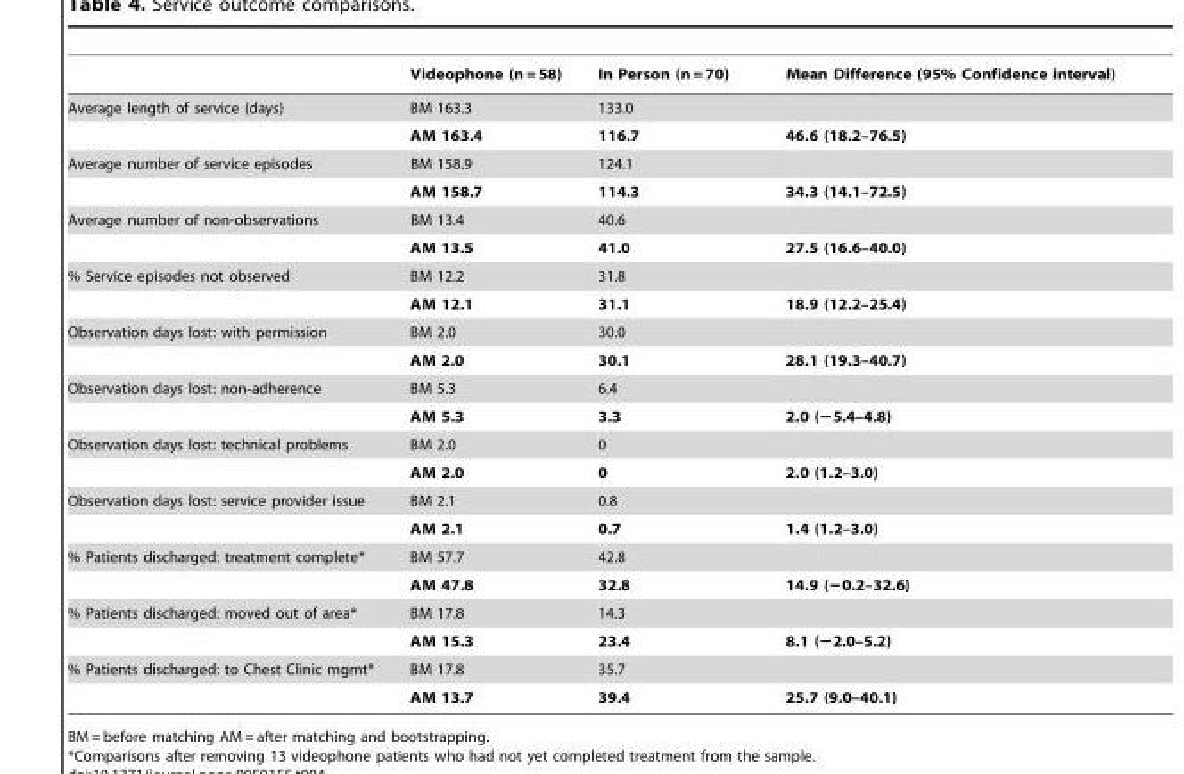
<table><thead><tr><td></td><td>Videophone (n = 58)</td><td>In Person (n = 70)</td><td>Mean Difference (95% Confidence interval)</td></tr></thead><tbody><tr><td rowspan="2">Average length of service (days)</td><td>BM 163.3</td><td>133.0</td><td></td></tr><tr><td>AM 163.4</td><td>116.7</td><td>46.6 (18.2–76.5)</td></tr><tr><td rowspan="2">Average number of service episodes</td><td>BM 158.9</td><td>124.1</td><td></td></tr><tr><td>AM 158.7</td><td>114.3</td><td>34.3 (14.1–72.5)</td></tr><tr><td rowspan="2">Average number of non-observations</td><td>BM 13.4</td><td>40.6</td><td></td></tr><tr><td>AM 13.5</td><td>41.0</td><td>27.5 (16.6–40.0)</td></tr><tr><td rowspan="2">% Service episodes not observed</td><td>BM 12.2</td><td>31.8</td><td></td></tr><tr><td>AM 12.1</td><td>31.1</td><td>18.9 (12.2–25.4)</td></tr><tr><td rowspan="2">Observation days lost: with permission</td><td>BM 2.0</td><td>30.0</td><td></td></tr><tr><td>AM 2.0</td><td>30.1</td><td>28.1 (19.3–40.7)</td></tr><tr><td rowspan="2">Observation days lost: non-adherence</td><td>BM 5.3</td><td>6.4</td><td></td></tr><tr><td>AM 5.3</td><td>3.3</td><td>2.0 (−5.4–4.8)</td></tr><tr><td rowspan="2">Observation days lost: technical problems</td><td>BM 2.0</td><td>0</td><td></td></tr><tr><td>AM 2.0</td><td>0</td><td>2.0 (1.2–3.0)</td></tr><tr><td rowspan="2">Observation days lost: service provider issue</td><td>BM 2.1</td><td>0.8</td><td></td></tr><tr><td>AM 2.1</td><td>0.7</td><td>1.4 (1.2–3.0)</td></tr><tr><td rowspan="2">% Patients discharged: treatment complete*</td><td>BM 57.7</td><td>42.8</td><td></td></tr><tr><td>AM 47.8</td><td>32.8</td><td>14.9 (−0.2–32.6)</td></tr><tr><td rowspan="2">% Patients discharged: moved out of area*</td><td>BM 17.8</td><td>14.3</td><td></td></tr><tr><td>AM 15.3</td><td>23.4</td><td>8.1 (−2.0–5.2)</td></tr><tr><td rowspan="2">% Patients discharged: to Chest Clinic mgmt*</td><td>BM 17.8</td><td>35.7</td><td></td></tr><tr><td>AM 13.7</td><td>39.4</td><td>25.7 (9.0–40.1)</td></tr></tbody></table>